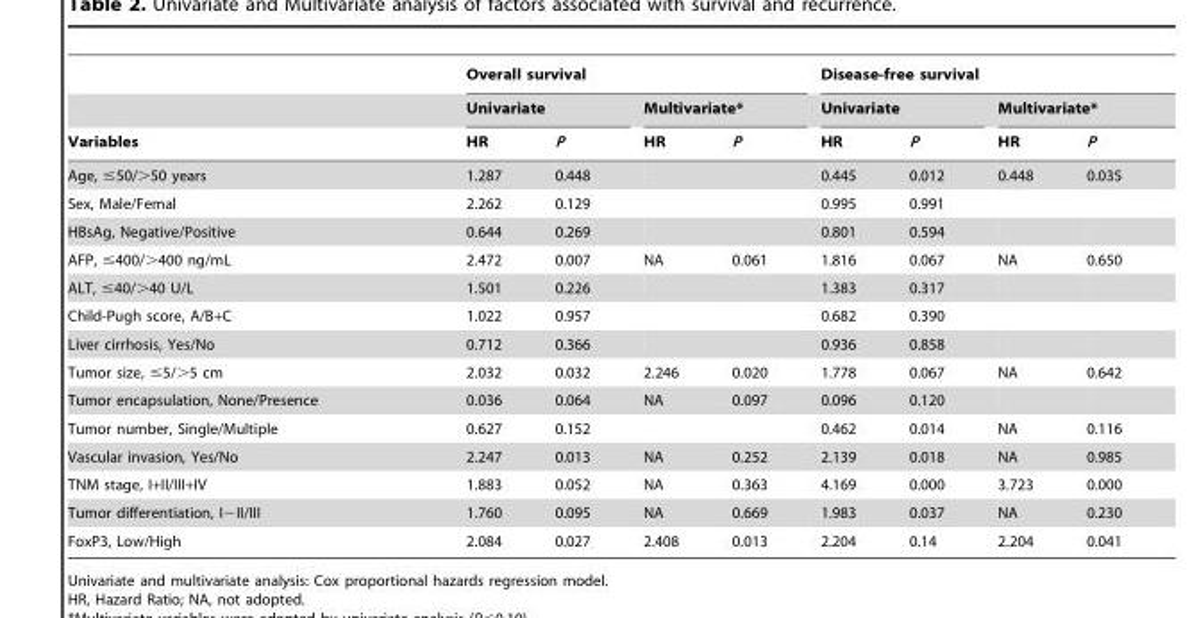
<table><thead><tr><td rowspan="3">Variables</td><td colspan="4">Overall survival</td><td colspan="4">Disease-free survival</td></tr><tr><td colspan="2">Univariate</td><td colspan="2">Multivariate*</td><td colspan="2">Univariate</td><td colspan="2">Multivariate*</td></tr><tr><td>HR</td><td>P</td><td>HR</td><td>P</td><td>HR</td><td>P</td><td>HR</td><td>P</td></tr></thead><tbody><tr><td>Age, ≤50/&gt;50 years</td><td>1.287</td><td>0.448</td><td></td><td></td><td>0.445</td><td>0.012</td><td>0.448</td><td>0.035</td></tr><tr><td>Sex, Male/Femal</td><td>2.262</td><td>0.129</td><td></td><td></td><td>0.995</td><td>0.991</td><td></td><td></td></tr><tr><td>HBsAg, Negative/Positive</td><td>0.644</td><td>0.269</td><td></td><td></td><td>0.801</td><td>0.594</td><td></td><td></td></tr><tr><td>AFP, ≤400/&gt;400 ng/mL</td><td>2.472</td><td>0.007</td><td>NA</td><td>0.061</td><td>1.816</td><td>0.067</td><td>NA</td><td>0.650</td></tr><tr><td>ALT, ≤40/&gt;40 U/L</td><td>1.501</td><td>0.226</td><td></td><td></td><td>1.383</td><td>0.317</td><td></td><td></td></tr><tr><td>Child-Pugh score, A/B+C</td><td>1.022</td><td>0.957</td><td></td><td></td><td>0.682</td><td>0.390</td><td></td><td></td></tr><tr><td>Liver cirrhosis, Yes/No</td><td>0.712</td><td>0.366</td><td></td><td></td><td>0.936</td><td>0.858</td><td></td><td></td></tr><tr><td>Tumor size, ≤5/&gt;5 cm</td><td>2.032</td><td>0.032</td><td>2.246</td><td>0.020</td><td>1.778</td><td>0.067</td><td>NA</td><td>0.642</td></tr><tr><td>Tumor encapsulation, None/Presence</td><td>0.036</td><td>0.064</td><td>NA</td><td>0.097</td><td>0.096</td><td>0.120</td><td></td><td></td></tr><tr><td>Tumor number, Single/Multiple</td><td>0.627</td><td>0.152</td><td></td><td></td><td>0.462</td><td>0.014</td><td>NA</td><td>0.116</td></tr><tr><td>Vascular invasion, Yes/No</td><td>2.247</td><td>0.013</td><td>NA</td><td>0.252</td><td>2.139</td><td>0.018</td><td>NA</td><td>0.985</td></tr><tr><td>TNM stage, I+II/III+IV</td><td>1.883</td><td>0.052</td><td>NA</td><td>0.363</td><td>4.169</td><td>0.000</td><td>3.723</td><td>0.000</td></tr><tr><td>Tumor differentiation, I−II/III</td><td>1.760</td><td>0.095</td><td>NA</td><td>0.669</td><td>1.983</td><td>0.037</td><td>NA</td><td>0.230</td></tr><tr><td>FoxP3, Low/High</td><td>2.084</td><td>0.027</td><td>2.408</td><td>0.013</td><td>2.204</td><td>0.14</td><td>2.204</td><td>0.041</td></tr></tbody></table>